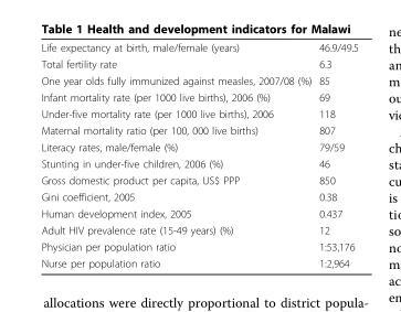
<table><tbody><tr><td>Life expectancy at birth, male/female (years)</td><td>46.9/49.5</td></tr><tr><td>Total fertility rate</td><td>6.3</td></tr><tr><td>One year olds fully immunized against measles, 2007/08 (%)</td><td>85</td></tr><tr><td>Infant mortality rate (per 1000 live births), 2006 (%)</td><td>69</td></tr><tr><td>Under-five mortality rate (per 1000 live births), 2006</td><td>118</td></tr><tr><td>Maternal mortality ratio (per 100, 000 live births)</td><td>807</td></tr><tr><td>Literacy rates, male/female (%)</td><td>79/59</td></tr><tr><td>Stunting in under-five children, 2006 (%)</td><td>46</td></tr><tr><td>Gross domestic product per capita, US$ PPP</td><td>850</td></tr><tr><td>Gini coefficient, 2005</td><td>0.38</td></tr><tr><td>Human development index, 2005</td><td>0.437</td></tr><tr><td>Adult HIV prevalence rate (15-49 years) (%)</td><td>12</td></tr><tr><td>Physician per population ratio</td><td>1:53,176</td></tr><tr><td>Nurse per population ratio</td><td>1:2,964</td></tr></tbody></table>